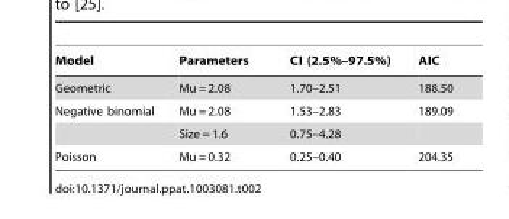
<table><thead><tr><td>Model</td><td>Parameters</td><td>CI (2.5%–97.5%)</td><td>AIC</td></tr></thead><tbody><tr><td>Geometric</td><td>Mu = 2.08</td><td>1.70–2.51</td><td>188.50</td></tr><tr><td rowspan="2">Negative binomial</td><td>Mu = 2.08</td><td>1.53–2.83</td><td>189.09</td></tr><tr><td>Size = 1.6</td><td>0.75–4.28</td><td></td></tr><tr><td>Poisson</td><td>Mu = 0.32</td><td>0.25–0.40</td><td>204.35</td></tr></tbody></table>